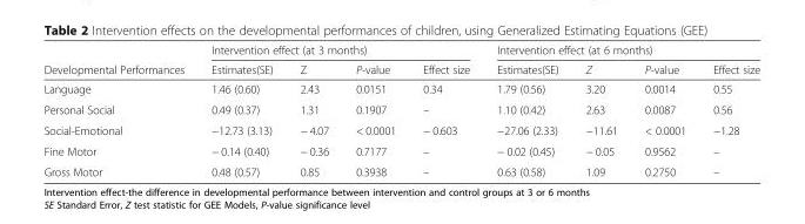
<table><thead><tr><td rowspan="2">Developmental Performances</td><td colspan="4">Intervention effect (at 3 months)</td><td colspan="4">Intervention effect (at 6 months)</td></tr><tr><td>Estimates(SE)</td><td>Z</td><td>P-value</td><td>Effect size</td><td>Estimates(SE)</td><td>Z</td><td>P-value</td><td>Effect size</td></tr></thead><tbody><tr><td>Language</td><td>1.46 (0.60)</td><td>2.43</td><td>0.0151</td><td>0.34</td><td>1.79 (0.56)</td><td>3.20</td><td>0.0014</td><td>0.55</td></tr><tr><td>Personal Social</td><td>0.49 (0.37)</td><td>1.31</td><td>0.1907</td><td>–</td><td>1.10 (0.42)</td><td>2.63</td><td>0.0087</td><td>0.56</td></tr><tr><td>Social-Emotional</td><td>−12.73 (3.13)</td><td>− 4.07</td><td>&lt; 0.0001</td><td>− 0.603</td><td>−27.06 (2.33)</td><td>−11.61</td><td>&lt; 0.0001</td><td>−1.28</td></tr><tr><td>Fine Motor</td><td>− 0.14 (0.40)</td><td>− 0.36</td><td>0.7177</td><td>–</td><td>− 0.02 (0.45)</td><td>− 0.05</td><td>0.9562</td><td>–</td></tr><tr><td>Gross Motor</td><td>0.48 (0.57)</td><td>0.85</td><td>0.3938</td><td>–</td><td>0.63 (0.58)</td><td>1.09</td><td>0.2750</td><td>–</td></tr></tbody></table>